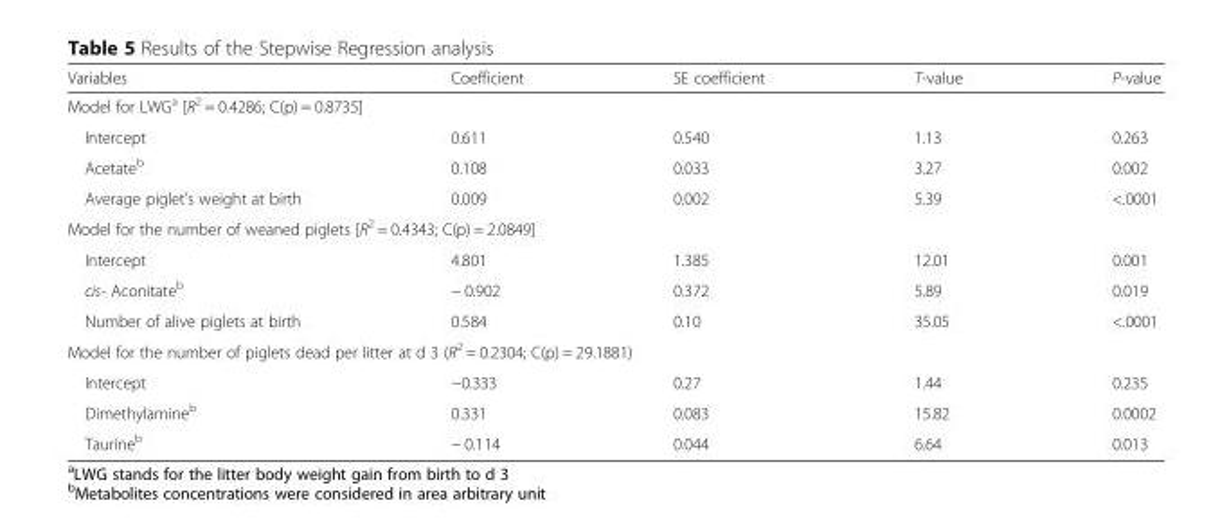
<table><thead><tr><td>Variables</td><td>Coefficient</td><td>SE coefficient</td><td>T-value</td><td>P-value</td></tr></thead><tbody><tr><td colspan="5">Model for LWG<sup>a</sup> [R<sup>2</sup> = 0.4286; C(p) = 0.8735]</td></tr><tr><td>Intercept</td><td>0.611</td><td>0.540</td><td>1.13</td><td>0.263</td></tr><tr><td>Acetate<sup>b</sup></td><td>0.108</td><td>0.033</td><td>3.27</td><td>0.002</td></tr><tr><td>Average piglet’s weight at birth</td><td>0.009</td><td>0.002</td><td>5.39</td><td>&lt;.0001</td></tr><tr><td colspan="5">Model for the number of weaned piglets [R<sup>2</sup> = 0.4343; C(p) = 2.0849]</td></tr><tr><td>Intercept</td><td>4.801</td><td>1.385</td><td>12.01</td><td>0.001</td></tr><tr><td>cis- Aconitate<sup>b</sup></td><td>− 0.902</td><td>0.372</td><td>5.89</td><td>0.019</td></tr><tr><td>Number of alive piglets at birth</td><td>0.584</td><td>0.10</td><td>35.05</td><td>&lt;.0001</td></tr><tr><td colspan="5">Model for the number of piglets dead per litter at d 3 (R<sup>2</sup> = 0.2304; C(p) = 29.1881)</td></tr><tr><td>Intercept</td><td>−0.333</td><td>0.27</td><td>1.44</td><td>0.235</td></tr><tr><td>Dimethylamine<sup>b</sup></td><td>0.331</td><td>0.083</td><td>15.82</td><td>0.0002</td></tr><tr><td>Taurine<sup>b</sup></td><td>− 0.114</td><td>0.044</td><td>6.64</td><td>0.013</td></tr></tbody></table>